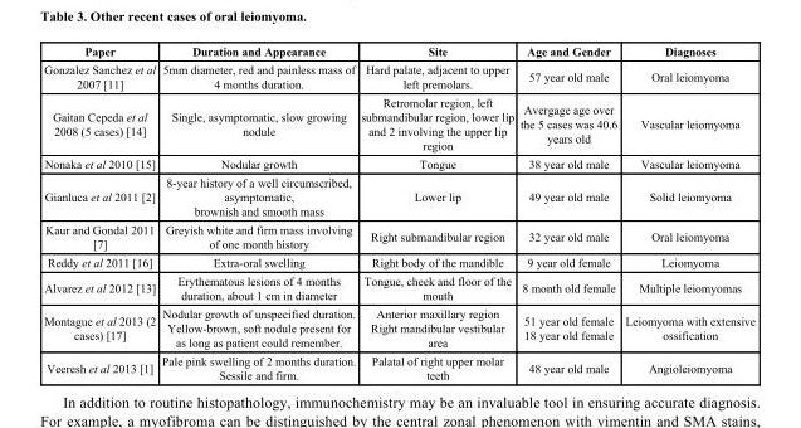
<table><thead><tr><td>Paper</td><td>Duration and Appearance</td><td>Site</td><td>Age and Gender</td><td>Diagnoses</td></tr></thead><tbody><tr><td>Gonzalez Sanchez et al 2007 [11]</td><td>5mm diameter, red and painless mass of 4 months duration.</td><td>Hard palate, adjacent to upper left premolars.</td><td>57 year old male</td><td>Oral leiomyoma</td></tr><tr><td>Gaitan Cepeda et al 2008 (5 cases) [14]</td><td>Single, asymptomatic, slow growing nodule</td><td>Retromolar region, left submandibular region, lower lip and 2 involving the upper lip region</td><td>Avergage age over the 5 cases was 40.6 years old</td><td>Vascular leiomyoma</td></tr><tr><td>Nonaka et al 2010 [15]</td><td>Nodular growth</td><td>Tongue</td><td>38 year old male</td><td>Vascular leiomyoma</td></tr><tr><td>Gianluca et al 2011 [2]</td><td>8-year history of a well circumscribed, asymptomatic, brownish and smooth mass</td><td>Lower lip</td><td>49 year old male</td><td>Solid leiomyoma</td></tr><tr><td>Kaur and Gondal 2011 [7]</td><td>Greyish white and firm mass involving of one month history</td><td>Right submandibular region</td><td>32 year old male</td><td>Oral leiomyoma</td></tr><tr><td>Reddy et al 2011 [16]</td><td>Extra-oral swelling</td><td>Right body of the mandible</td><td>9 year old female</td><td>Leiomyoma</td></tr><tr><td>Alvarez et al 2012 [13]</td><td>Erythematous lesions of 4 months duration, about 1 cm in diameter</td><td>Tongue, cheek and floor of the mouth</td><td>8 month old female</td><td>Multiple leiomyomas</td></tr><tr><td>Montague et al 2013 (2 cases) [17]</td><td>Nodular growth of unspecified duration. Yellow-brown, soft nodule present for as long as patient could remember.</td><td>Anterior maxillary region Right mandibular vestibular area</td><td>51 year old female 18 year old female</td><td>Leiomyoma with extensive ossification</td></tr><tr><td>Veeresh et al 2013 [1]</td><td>Pale pink swelling of 2 months duration. Sessile and firm.</td><td>Palatal of right upper molar teeth</td><td>48 year old male</td><td>Angioleiomyoma</td></tr></tbody></table>